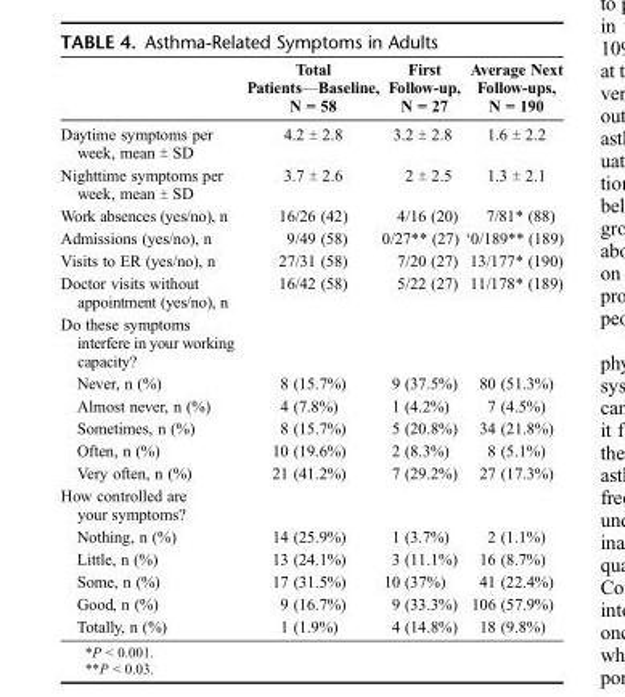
<table><thead><tr><td></td><td>Total PatientsVBaseline, N = 58</td><td>First Follow-up, N = 27</td><td>Average Next Follow-ups, N = 190</td></tr></thead><tbody><tr><td>Daytime symptoms per week, mean ± SD</td><td>4.2 ± 2.8</td><td>3.2 ± 2.8</td><td>1.6 ± 2.2</td></tr><tr><td>Nighttime symptoms per week, mean ± SD</td><td>3.7 ± 2.6</td><td>2 ± 2.5</td><td>1.3 ± 2.1</td></tr><tr><td>Work absences (yes/no), n</td><td>16/26 (42)</td><td>4/16 (20)</td><td>7/81* (88)</td></tr><tr><td>Admissions (yes/no), n</td><td>9/49 (58)</td><td>0/27** (27)</td><td>F0/189** (189)</td></tr><tr><td>Visits to ER (yes/no), n</td><td>27/31 (58)</td><td>7/20 (27)</td><td>13/177* (190)</td></tr><tr><td>Doctor visits without appointment (yes/no), n</td><td>16/42 (58)</td><td>5/22 (27)</td><td>11/178* (189)</td></tr><tr><td colspan="4">Do these symptoms interfere in your working capacity?</td></tr><tr><td>Never, n (%)</td><td>8 (15.7%)</td><td>9 (37.5%)</td><td>80 (51.3%)</td></tr><tr><td>Almost never, n (%)</td><td>4 (7.8%)</td><td>1 (4.2%)</td><td>7 (4.5%)</td></tr><tr><td>Sometimes, n (%)</td><td>8 (15.7%)</td><td>5 (20.8%)</td><td>34 (21.8%)</td></tr><tr><td>Often, n (%)</td><td>10 (19.6%)</td><td>2 (8.3%)</td><td>8 (5.1%)</td></tr><tr><td>Very often, n (%)</td><td>21 (41.2%)</td><td>7 (29.2%)</td><td>27 (17.3%)</td></tr><tr><td colspan="4">How controlled are your symptoms?</td></tr><tr><td>Nothing, n (%)</td><td>14 (25.9%)</td><td>1 (3.7%)</td><td>2 (1.1%)</td></tr><tr><td>Little, n (%)</td><td>13 (24.1%)</td><td>3 (11.1%)</td><td>16 (8.7%)</td></tr><tr><td>Some, n (%)</td><td>17 (31.5%)</td><td>10 (37%)</td><td>41 (22.4%)</td></tr><tr><td>Good, n (%)</td><td>9 (16.7%)</td><td>9 (33.3%)</td><td>106 (57.9%)</td></tr><tr><td>Totally, n (%)</td><td>1 (1.9%)</td><td>4 (14.8%)</td><td>18 (9.8%)</td></tr></tbody></table>